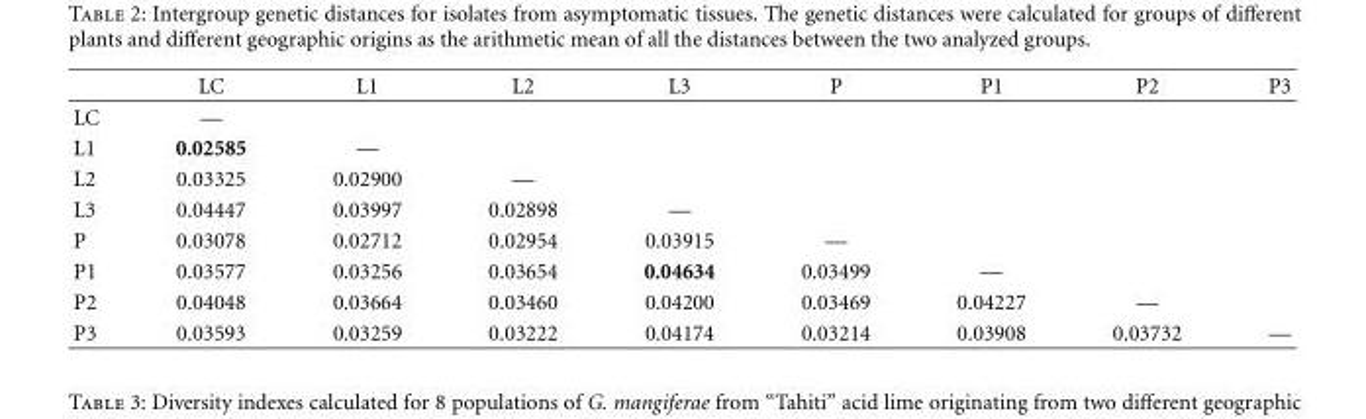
<table><thead><tr><td></td><td>LC</td><td>L1</td><td>L2</td><td>L3</td><td>P</td><td>P1</td><td>P2</td><td>P3</td></tr></thead><tbody><tr><td>LC</td><td>—</td><td></td><td></td><td></td><td></td><td></td><td></td><td></td></tr><tr><td>L1</td><td>0.02585</td><td>—</td><td></td><td></td><td></td><td></td><td></td><td></td></tr><tr><td>L2</td><td>0.03325</td><td>0.02900</td><td>—</td><td></td><td></td><td></td><td></td><td></td></tr><tr><td>L3</td><td>0.04447</td><td>0.03997</td><td>0.02898</td><td>—</td><td></td><td></td><td></td><td></td></tr><tr><td>P</td><td>0.03078</td><td>0.02712</td><td>0.02954</td><td>0.03915</td><td>—</td><td></td><td></td><td></td></tr><tr><td>P1</td><td>0.03577</td><td>0.03256</td><td>0.03654</td><td>0.04634</td><td>0.03499</td><td>—</td><td></td><td></td></tr><tr><td>P2</td><td>0.04048</td><td>0.03664</td><td>0.03460</td><td>0.04200</td><td>0.03469</td><td>0.04227</td><td>—</td><td></td></tr><tr><td>P3</td><td>0.03593</td><td>0.03259</td><td>0.03222</td><td>0.04174</td><td>0.03214</td><td>0.03908</td><td>0.03732</td><td>—</td></tr></tbody></table>